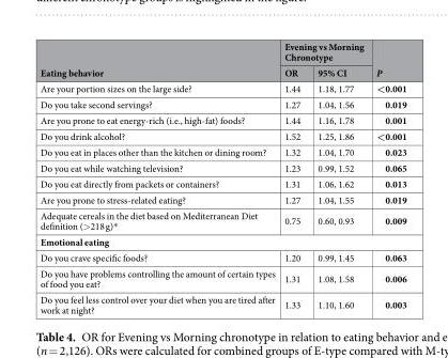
<table><thead><tr><td rowspan="2">Eating behavior</td><td colspan="2">Evening vs Morning Chronotype</td><td rowspan="2">P</td></tr><tr><td>OR</td><td>95% CI</td></tr></thead><tbody><tr><td>Are your portion sizes on the large side?</td><td>1.44</td><td>1.18, 1.77</td><td>&lt;0.001</td></tr><tr><td>Do you take second servings?</td><td>1.27</td><td>1.04, 1.56</td><td>0.019</td></tr><tr><td>Are you prone to eat energy-rich (i.e., high-fat) foods?</td><td>1.44</td><td>1.16, 1.78</td><td>0.001</td></tr><tr><td>Do you drink alcohol?</td><td>1.52</td><td>1.25, 1.86</td><td>&lt;0.001</td></tr><tr><td>Do you eat in places other than the kitchen or dining room?</td><td>1.32</td><td>1.04, 1.70</td><td>0.023</td></tr><tr><td>Do you eat while watching television?</td><td>1.23</td><td>0.99, 1.52</td><td>0.065</td></tr><tr><td>Do you eat directly from packets or containers?</td><td>1.31</td><td>1.06, 1.62</td><td>0.013</td></tr><tr><td>Are you prone to stress-related eating?</td><td>1.27</td><td>1.04, 1.55</td><td>0.019</td></tr><tr><td>Adequate cereals in the diet based on Mediterranean Diet definition (&gt;218 g)*</td><td>0.75</td><td>0.60, 0.93</td><td>0.009</td></tr><tr><td colspan="4">Emotional eating</td></tr><tr><td>Do you crave specific foods?</td><td>1.20</td><td>0.99, 1.45</td><td>0.063</td></tr><tr><td>Do you have problems controlling the amount of certain types of food you eat?</td><td>1.31</td><td>1.08, 1.58</td><td>0.006</td></tr><tr><td>Do you feel less control over your diet when you are tired after work at night?</td><td>1.33</td><td>1.10, 1.60</td><td>0.003</td></tr></tbody></table>